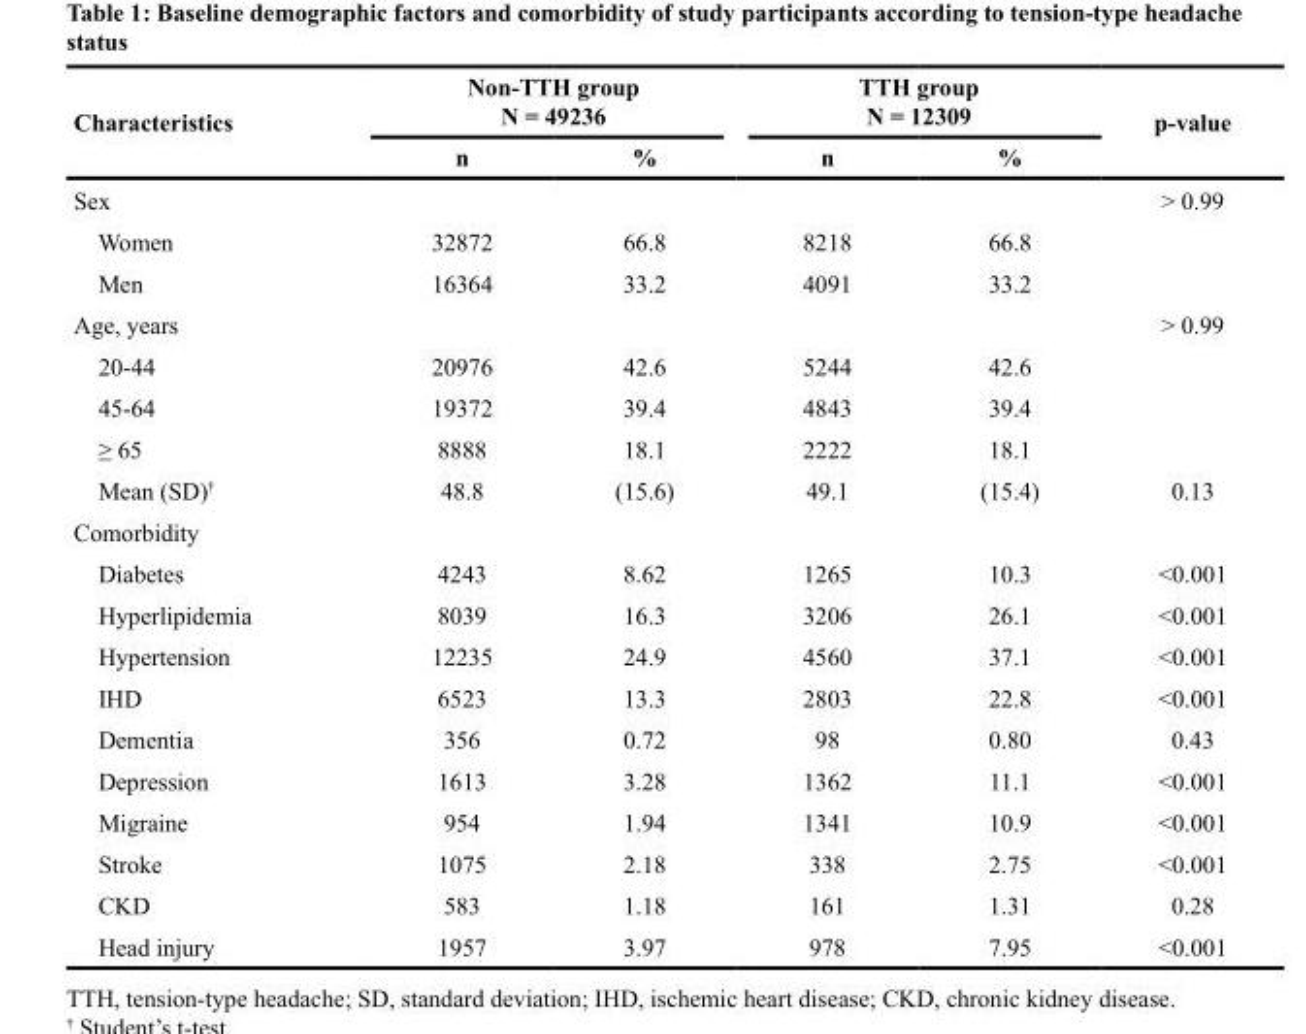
<table><thead><tr><td rowspan="2">Characteristics</td><td colspan="2">Non-TTH group N = 49236</td><td colspan="2">TTH group N = 12309</td><td rowspan="2">p-value</td></tr><tr><td>n</td><td>%</td><td>n</td><td>%</td></tr></thead><tbody><tr><td>Sex</td><td></td><td></td><td></td><td></td><td>&gt; 0.99</td></tr><tr><td>Women</td><td>32872</td><td>66.8</td><td>8218</td><td>66.8</td><td></td></tr><tr><td>Men</td><td>16364</td><td>33.2</td><td>4091</td><td>33.2</td><td></td></tr><tr><td>Age, years</td><td></td><td></td><td></td><td></td><td>&gt; 0.99</td></tr><tr><td>20-44</td><td>20976</td><td>42.6</td><td>5244</td><td>42.6</td><td></td></tr><tr><td>45-64</td><td>19372</td><td>39.4</td><td>4843</td><td>39.4</td><td></td></tr><tr><td>≥ 65</td><td>8888</td><td>18.1</td><td>2222</td><td>18.1</td><td></td></tr><tr><td>Mean (SD)<sup>†</sup></td><td>48.8</td><td>(15.6)</td><td>49.1</td><td>(15.4)</td><td>0.13</td></tr><tr><td colspan="6">Comorbidity</td></tr><tr><td>Diabetes</td><td>4243</td><td>8.62</td><td>1265</td><td>10.3</td><td>&lt;0.001</td></tr><tr><td>Hyperlipidemia</td><td>8039</td><td>16.3</td><td>3206</td><td>26.1</td><td>&lt;0.001</td></tr><tr><td>Hypertension</td><td>12235</td><td>24.9</td><td>4560</td><td>37.1</td><td>&lt;0.001</td></tr><tr><td>IHD</td><td>6523</td><td>13.3</td><td>2803</td><td>22.8</td><td>&lt;0.001</td></tr><tr><td>Dementia</td><td>356</td><td>0.72</td><td>98</td><td>0.80</td><td>0.43</td></tr><tr><td>Depression</td><td>1613</td><td>3.28</td><td>1362</td><td>11.1</td><td>&lt;0.001</td></tr><tr><td>Migraine</td><td>954</td><td>1.94</td><td>1341</td><td>10.9</td><td>&lt;0.001</td></tr><tr><td>Stroke</td><td>1075</td><td>2.18</td><td>338</td><td>2.75</td><td>&lt;0.001</td></tr><tr><td>CKD</td><td>583</td><td>1.18</td><td>161</td><td>1.31</td><td>0.28</td></tr><tr><td>Head injury</td><td>1957</td><td>3.97</td><td>978</td><td>7.95</td><td>&lt;0.001</td></tr></tbody></table>